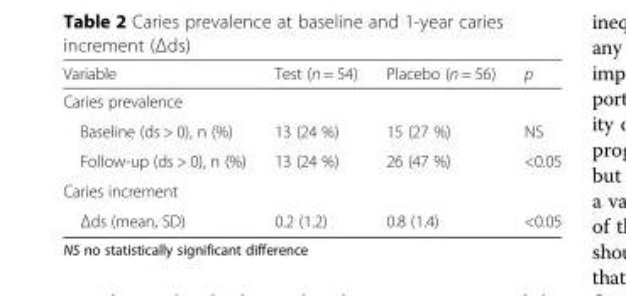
<table><thead><tr><td>Variable</td><td>Test (n = 54)</td><td>Placebo (n = 56)</td><td>p</td></tr></thead><tbody><tr><td colspan="4">Caries prevalence</td></tr><tr><td>Baseline (ds &gt; 0), n (%)</td><td>13 (24 %)</td><td>15 (27 %)</td><td>NS</td></tr><tr><td>Follow-up (ds &gt; 0), n (%)</td><td>13 (24 %)</td><td>26 (47 %)</td><td>&lt;0.05</td></tr><tr><td colspan="4">Caries increment</td></tr><tr><td>Δds (mean, SD)</td><td>0.2 (1.2)</td><td>0.8 (1.4)</td><td>&lt;0.05</td></tr></tbody></table>